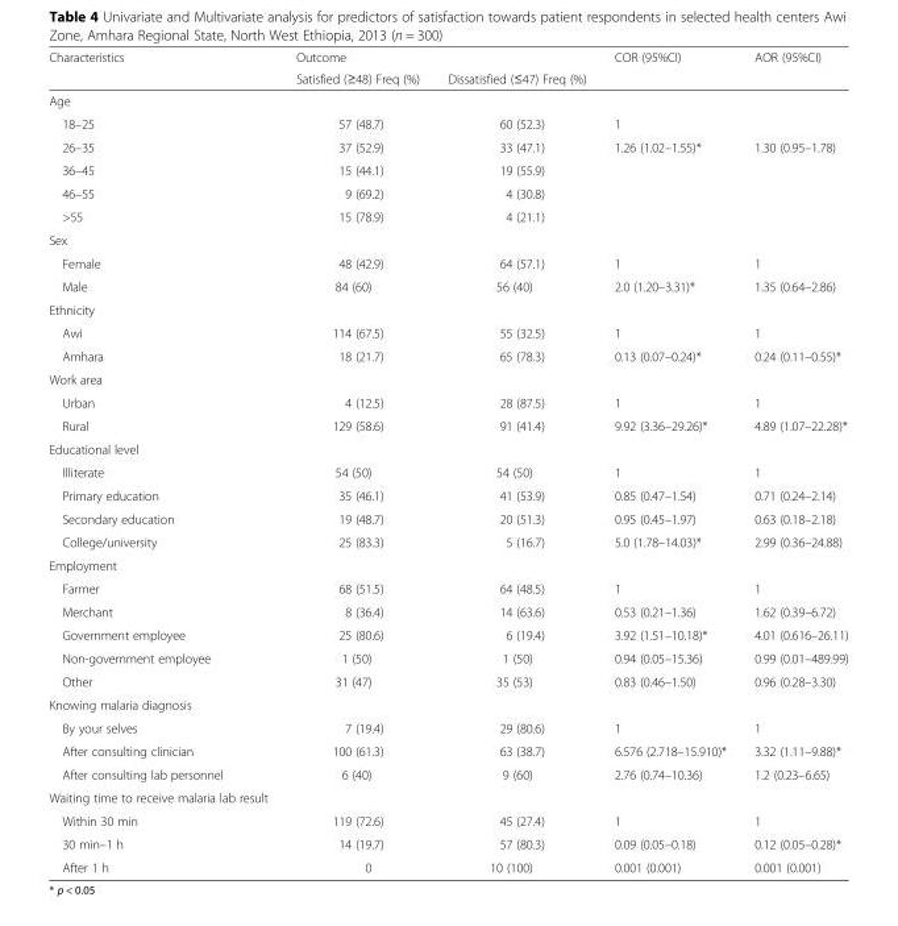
<table><thead><tr><td rowspan="2">Characteristics</td><td colspan="2">Outcome</td><td rowspan="2">COR (95%CI)</td><td rowspan="2">AOR (95%CI)</td></tr><tr><td>Satisfied (≥48) Freq (%)</td><td>Dissatisfied (≤47) Freq (%)</td></tr></thead><tbody><tr><td colspan="5">Age</td></tr><tr><td>18–25</td><td>57 (48.7)</td><td>60 (52.3)</td><td>1</td><td></td></tr><tr><td>26–35</td><td>37 (52.9)</td><td>33 (47.1)</td><td>1.26 (1.02–1.55)*</td><td>1.30 (0.95–1.78)</td></tr><tr><td>36–45</td><td>15 (44.1)</td><td>19 (55.9)</td><td></td><td></td></tr><tr><td>46–55</td><td>9 (69.2)</td><td>4 (30.8)</td><td></td><td></td></tr><tr><td>&gt;55</td><td>15 (78.9)</td><td>4 (21.1)</td><td></td><td></td></tr><tr><td colspan="5">Sex</td></tr><tr><td>Female</td><td>48 (42.9)</td><td>64 (57.1)</td><td>1</td><td>1</td></tr><tr><td>Male</td><td>84 (60)</td><td>56 (40)</td><td>2.0 (1.20–3.31)*</td><td>1.35 (0.64–2.86)</td></tr><tr><td colspan="5">Ethnicity</td></tr><tr><td>Awi</td><td>114 (67.5)</td><td>55 (32.5)</td><td>1</td><td>1</td></tr><tr><td>Amhara</td><td>18 (21.7)</td><td>65 (78.3)</td><td>0.13 (0.07–0.24)*</td><td>0.24 (0.11–0.55)*</td></tr><tr><td colspan="5">Work area</td></tr><tr><td>Urban</td><td>4 (12.5)</td><td>28 (87.5)</td><td>1</td><td>1</td></tr><tr><td>Rural</td><td>129 (58.6)</td><td>91 (41.4)</td><td>9.92 (3.36–29.26)*</td><td>4.89 (1.07–22.28)*</td></tr><tr><td colspan="5">Educational level</td></tr><tr><td>Illiterate</td><td>54 (50)</td><td>54 (50)</td><td>1</td><td>1</td></tr><tr><td>Primary education</td><td>35 (46.1)</td><td>41 (53.9)</td><td>0.85 (0.47–1.54)</td><td>0.71 (0.24–2.14)</td></tr><tr><td>Secondary education</td><td>19 (48.7)</td><td>20 (51.3)</td><td>0.95 (0.45–1.97)</td><td>0.63 (0.18–2.18)</td></tr><tr><td>College/university</td><td>25 (83.3)</td><td>5 (16.7)</td><td>5.0 (1.78–14.03)*</td><td>2.99 (0.36–24.88)</td></tr><tr><td colspan="5">Employment</td></tr><tr><td>Farmer</td><td>68 (51.5)</td><td>64 (48.5)</td><td>1</td><td>1</td></tr><tr><td>Merchant</td><td>8 (36.4)</td><td>14 (63.6)</td><td>0.53 (0.21–1.36)</td><td>1.62 (0.39–6.72)</td></tr><tr><td>Government employee</td><td>25 (80.6)</td><td>6 (19.4)</td><td>3.92 (1.51–10.18)*</td><td>4.01 (0.616–26.11)</td></tr><tr><td>Non-government employee</td><td>1 (50)</td><td>1 (50)</td><td>0.94 (0.05–15.36)</td><td>0.99 (0.01–489.99)</td></tr><tr><td>Other</td><td>31 (47)</td><td>35 (53)</td><td>0.83 (0.46–1.50)</td><td>0.96 (0.28–3.30)</td></tr><tr><td colspan="5">Knowing malaria diagnosis</td></tr><tr><td>By your selves</td><td>7 (19.4)</td><td>29 (80.6)</td><td>1</td><td>1</td></tr><tr><td>After consulting clinician</td><td>100 (61.3)</td><td>63 (38.7)</td><td>6.576 (2.718–15.910)*</td><td>3.32 (1.11–9.88)*</td></tr><tr><td>After consulting lab personnel</td><td>6 (40)</td><td>9 (60)</td><td>2.76 (0.74–10.36)</td><td>1.2 (0.23–6.65)</td></tr><tr><td colspan="5">Waiting time to receive malaria lab result</td></tr><tr><td>Within 30 min</td><td>119 (72.6)</td><td>45 (27.4)</td><td>1</td><td>1</td></tr><tr><td>30 min–1 h</td><td>14 (19.7)</td><td>57 (80.3)</td><td>0.09 (0.05–0.18)</td><td>0.12 (0.05–0.28)*</td></tr><tr><td>After 1 h</td><td>0</td><td>10 (100)</td><td>0.001 (0.001)</td><td>0.001 (0.001)</td></tr></tbody></table>